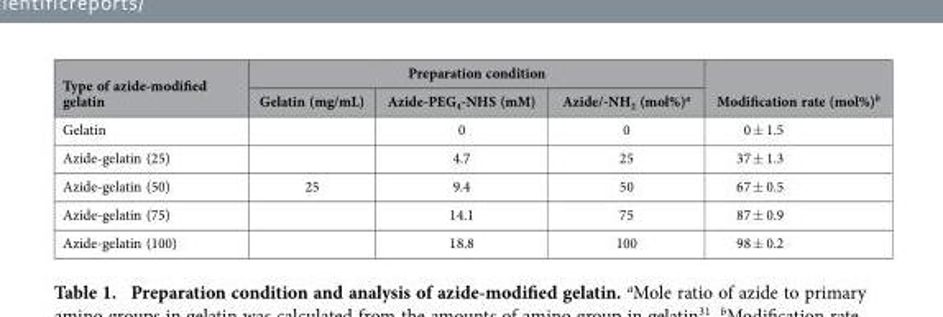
<table><thead><tr><td rowspan="2">Type of azide-modified gelatin</td><td colspan="3">Preparation condition</td><td rowspan="2">Modification rate (mol%)<sup>b</sup></td></tr><tr><td>Gelatin (mg/mL)</td><td>Azide-PEG<sub>4</sub>-NHS (mM)</td><td>Azide/-NH<sub>2</sub> (mol%)<sup>a</sup></td></tr></thead><tbody><tr><td>Gelatin</td><td></td><td>0</td><td>0</td><td>0 ± 1.5</td></tr><tr><td>Azide-gelatin (25)</td><td></td><td>4.7</td><td>25</td><td>37 ± 1.3</td></tr><tr><td>Azide-gelatin (50)</td><td>25</td><td>9.4</td><td>50</td><td>67 ± 0.5</td></tr><tr><td>Azide-gelatin (75)</td><td></td><td>14.1</td><td>75</td><td>87 ± 0.9</td></tr><tr><td>Azide-gelatin (100)</td><td></td><td>18.8</td><td>100</td><td>98 ± 0.2</td></tr></tbody></table>